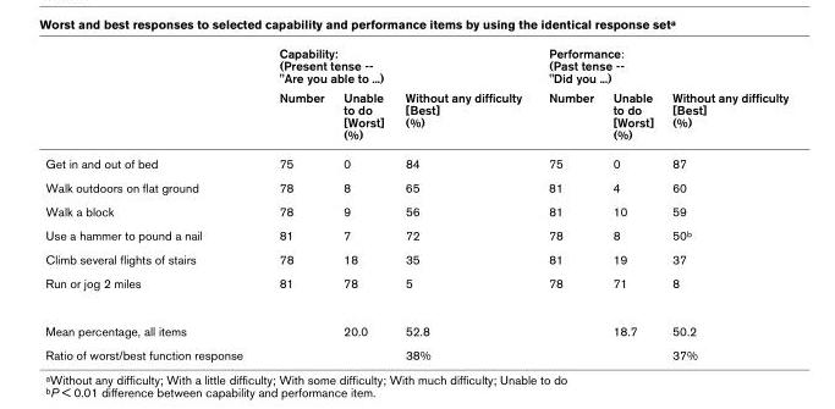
<table><thead><tr><td rowspan="2"></td><td colspan="3">Capability: (Present tense -- &quot;Are you able to ...)</td><td colspan="3">Performance: (Past tense -- &quot;Did you ...)</td></tr><tr><td>Number</td><td>Unable to do [Worst] (%)</td><td>Without any difficulty [Best] (%)</td><td>Number</td><td>Unable to do [Worst] (%)</td><td>Without any difficulty [Best] (%)</td></tr></thead><tbody><tr><td>Get in and out of bed</td><td>75</td><td>0</td><td>84</td><td>75</td><td>0</td><td>87</td></tr><tr><td>Walk outdoors on flat ground</td><td>78</td><td>8</td><td>65</td><td>81</td><td>4</td><td>60</td></tr><tr><td>Walk a block</td><td>78</td><td>9</td><td>56</td><td>81</td><td>10</td><td>59</td></tr><tr><td>Use a hammer to pound a nail</td><td>81</td><td>7</td><td>72</td><td>78</td><td>8</td><td>50<sup>b</sup></td></tr><tr><td>Climb several flights of stairs</td><td>78</td><td>18</td><td>35</td><td>81</td><td>19</td><td>37</td></tr><tr><td>Run or jog 2 miles</td><td>81</td><td>78</td><td>5</td><td>78</td><td>71</td><td>8</td></tr><tr><td>Mean percentage, all items</td><td></td><td>20.0</td><td>52.8</td><td></td><td>18.7</td><td>50.2</td></tr><tr><td>Ratio of worst/best function response</td><td></td><td></td><td>38%</td><td></td><td></td><td>37%</td></tr></tbody></table>